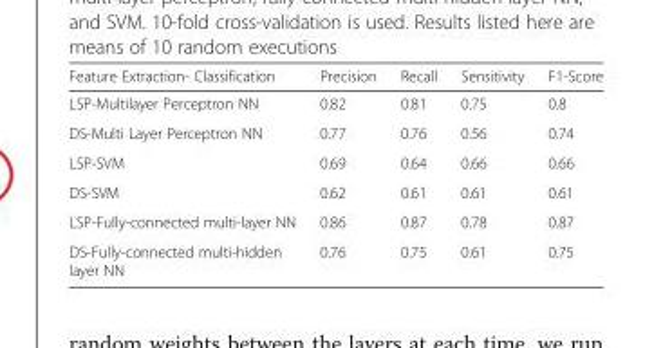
<table><thead><tr><td>Feature Extraction- Classification</td><td>Precision</td><td>Recall</td><td>Sensitivity</td><td>F1-Score</td></tr></thead><tbody><tr><td>LSP-Multilayer Perceptron NN</td><td>0.82</td><td>0.81</td><td>0.75</td><td>0.8</td></tr><tr><td>DS-Multi Layer Perceptron NN</td><td>0.77</td><td>0.76</td><td>0.56</td><td>0.74</td></tr><tr><td>LSP-SVM</td><td>0.69</td><td>0.64</td><td>0.66</td><td>0.66</td></tr><tr><td>DS-SVM</td><td>0.62</td><td>0.61</td><td>0.61</td><td>0.61</td></tr><tr><td>LSP-Fully-connected multi-layer NN</td><td>0.86</td><td>0.87</td><td>0.78</td><td>0.87</td></tr><tr><td>DS-Fully-connected multi-hidden layer NN</td><td>0.76</td><td>0.75</td><td>0.61</td><td>0.75</td></tr></tbody></table>